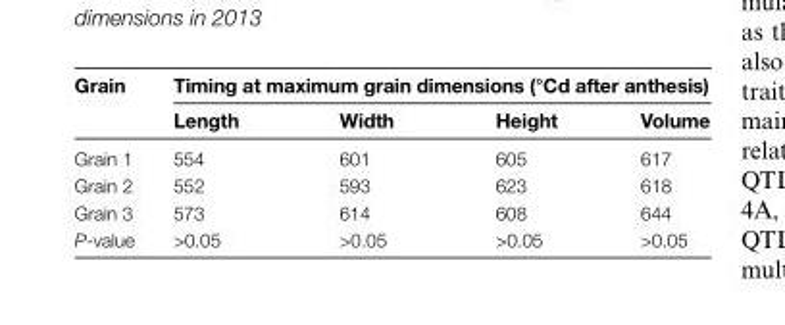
<table><thead><tr><td rowspan="2">Grain</td><td colspan="4">Timing at maximum grain dimensions (°Cd after anthesis)</td></tr><tr><td>Length</td><td>Width</td><td>Height</td><td>Volume</td></tr></thead><tbody><tr><td>Grain 1</td><td>554</td><td>601</td><td>605</td><td>617</td></tr><tr><td>Grain 2</td><td>552</td><td>593</td><td>623</td><td>618</td></tr><tr><td>Grain 3</td><td>573</td><td>614</td><td>608</td><td>644</td></tr><tr><td>P-value</td><td>&gt;0.05</td><td>&gt;0.05</td><td>&gt;0.05</td><td>&gt;0.05</td></tr></tbody></table>